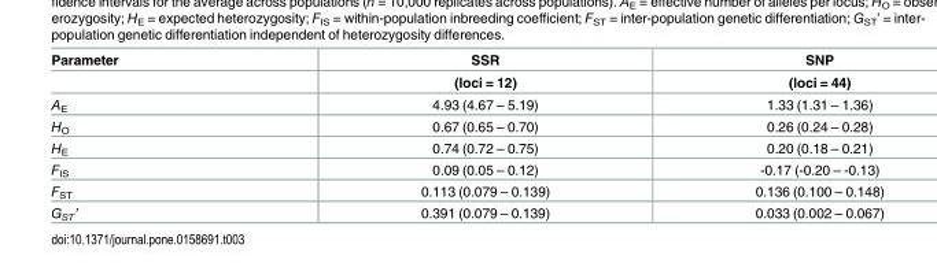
<table><thead><tr><td rowspan="2">Parameter</td><td rowspan="2">SSR (loci = 12)</td><td rowspan="2">SNP (loci = 44)</td></tr><tr></tr></thead><tbody><tr><td>A<sub>E</sub></td><td>4.93 (4.67 – 5.19)</td><td>1.33 (1.31 – 1.36)</td></tr><tr><td>H<sub>O</sub></td><td>0.67 (0.65 – 0.70)</td><td>0.26 (0.24 – 0.28)</td></tr><tr><td>H<sub>E</sub></td><td>0.74 (0.72 – 0.75)</td><td>0.20 (0.18 – 0.21)</td></tr><tr><td>F<sub>IS</sub></td><td>0.09 (0.05 – 0.12)</td><td>-0.17 (-0.20 – -0.13)</td></tr><tr><td>F<sub>ST</sub></td><td>0.113 (0.079 – 0.139)</td><td>0.136 (0.100 – 0.148)</td></tr><tr><td>G<sub>ST</sub>’</td><td>0.391 (0.079 – 0.139)</td><td>0.033 (0.002 – 0.067)</td></tr></tbody></table>